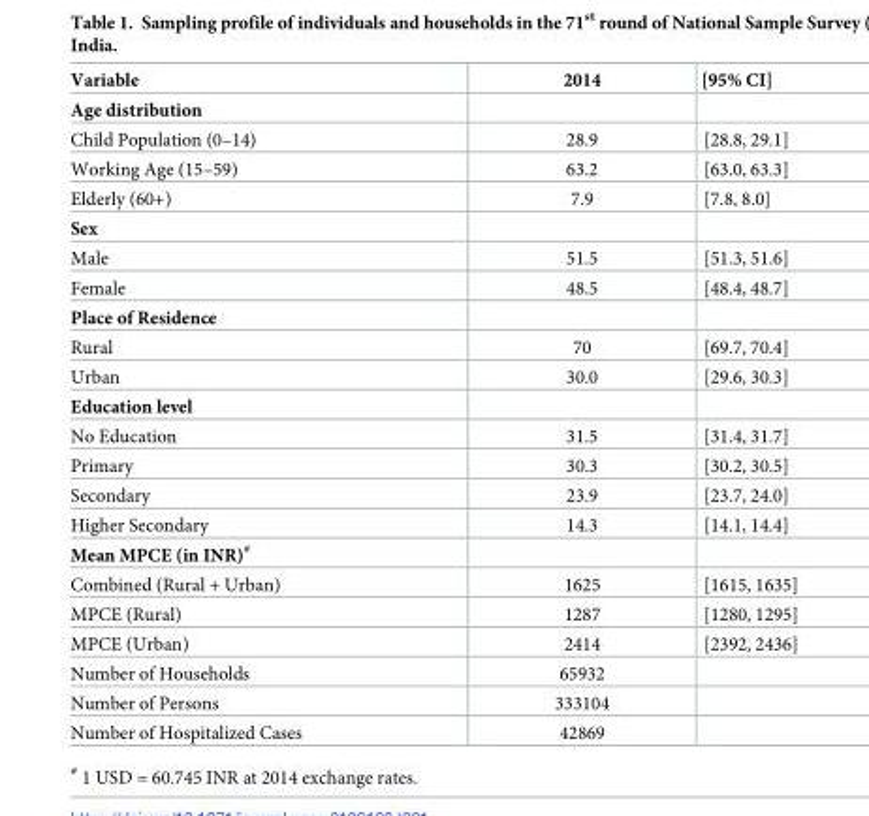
<table><thead><tr><td>Variable</td><td>2014</td><td>[95% CI]</td></tr></thead><tbody><tr><td colspan="3">Age distribution</td></tr><tr><td>Child Population (0–14)</td><td>28.9</td><td>[28.8, 29.1]</td></tr><tr><td>Working Age (15–59)</td><td>63.2</td><td>[63.0, 63.3]</td></tr><tr><td>Elderly (60+)</td><td>7.9</td><td>[7.8, 8.0]</td></tr><tr><td colspan="3">Sex</td></tr><tr><td>Male</td><td>51.5</td><td>[51.3, 51.6]</td></tr><tr><td>Female</td><td>48.5</td><td>[48.4, 48.7]</td></tr><tr><td colspan="3">Place of Residence</td></tr><tr><td>Rural</td><td>70</td><td>[69.7, 70.4]</td></tr><tr><td>Urban</td><td>30.0</td><td>[29.6, 30.3]</td></tr><tr><td colspan="3">Education level</td></tr><tr><td>No Education</td><td>31.5</td><td>[31.4, 31.7]</td></tr><tr><td>Primary</td><td>30.3</td><td>[30.2, 30.5]</td></tr><tr><td>Secondary</td><td>23.9</td><td>[23.7, 24.0]</td></tr><tr><td>Higher Secondary</td><td>14.3</td><td>[14.1, 14.4]</td></tr><tr><td colspan="3">Mean MPCE (in INR)<sup>#</sup></td></tr><tr><td>Combined (Rural + Urban)</td><td>1625</td><td>[1615, 1635]</td></tr><tr><td>MPCE (Rural)</td><td>1287</td><td>[1280, 1295]</td></tr><tr><td>MPCE (Urban)</td><td>2414</td><td>[2392, 2436]</td></tr><tr><td>Number of Households</td><td>65932</td><td></td></tr><tr><td>Number of Persons</td><td>333104</td><td></td></tr><tr><td>Number of Hospitalized Cases</td><td>42869</td><td></td></tr></tbody></table>